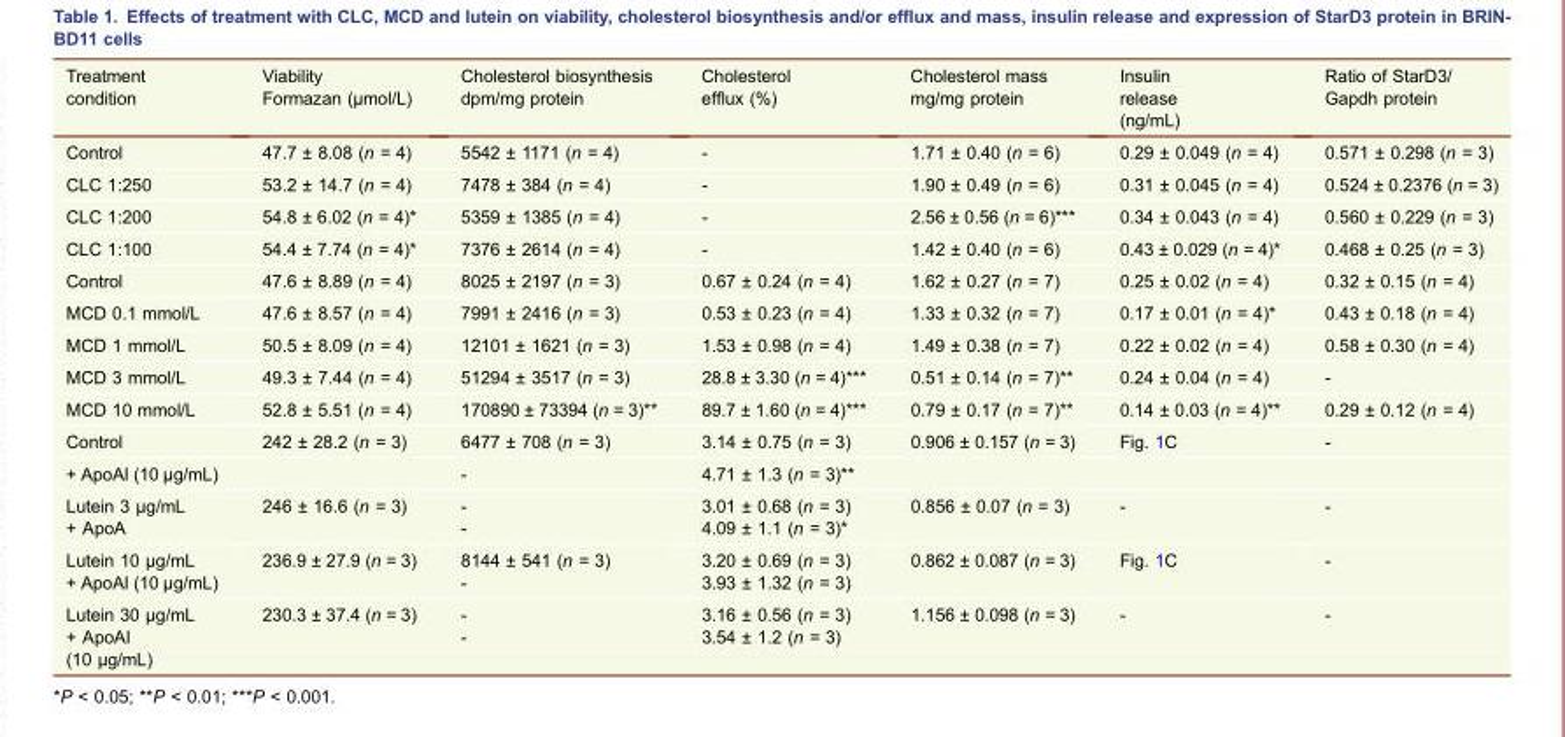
<table><thead><tr><td>Treatment condition</td><td>Viability Formazan (μmol/L)</td><td>Cholesterol biosynthesis dpm/mg protein</td><td>Cholesterol efflux (%)</td><td>Cholesterol mass mg/mg protein</td><td>Insulin release (ng/mL)</td><td>Ratio of StarD3/ Gapdh protein</td></tr></thead><tbody><tr><td>Control</td><td>47.7 ± 8.08 (n = 4)</td><td>5542 ± 1171 (n = 4)</td><td>-</td><td>1.71 ± 0.40 (n = 6)</td><td>0.29 ± 0.049 (n = 4)</td><td>0.571 ± 0.298 (n = 3)</td></tr><tr><td>CLC 1:250</td><td>53.2 ± 14.7 (n = 4)</td><td>7478 ± 384 (n = 4)</td><td>-</td><td>1.90 ± 0.49 (n = 6)</td><td>0.31 ± 0.045 (n = 4)</td><td>0.524 ± 0.2376 (n = 3)</td></tr><tr><td>CLC 1:200</td><td>54.8 ± 6.02 (n = 4)*</td><td>5359 ± 1385 (n = 4)</td><td>-</td><td>2.56 ± 0.56 (n = 6)***</td><td>0.34 ± 0.043 (n = 4)</td><td>0.560 ± 0.229 (n = 3)</td></tr><tr><td>CLC 1:100</td><td>54.4 ± 7.74 (n = 4)*</td><td>7376 ± 2614 (n = 4)</td><td>-</td><td>1.42 ± 0.40 (n = 6)</td><td>0.43 ± 0.029 (n = 4)*</td><td>0.468 ± 0.25 (n = 3)</td></tr><tr><td>Control</td><td>47.6 ± 8.89 (n = 4)</td><td>8025 ± 2197 (n = 3)</td><td>0.67 ± 0.24 (n = 4)</td><td>1.62 ± 0.27 (n = 7)</td><td>0.25 ± 0.02 (n = 4)</td><td>0.32 ± 0.15 (n = 4)</td></tr><tr><td>MCD 0.1 mmol/L</td><td>47.6 ± 8.57 (n = 4)</td><td>7991 ± 2416 (n = 3)</td><td>0.53 ± 0.23 (n = 4)</td><td>1.33 ± 0.32 (n = 7)</td><td>0.17 ± 0.01 (n = 4)*</td><td>0.43 ± 0.18 (n = 4)</td></tr><tr><td>MCD 1 mmol/L</td><td>50.5 ± 8.09 (n = 4)</td><td>12101 ± 1621 (n = 3)</td><td>1.53 ± 0.98 (n = 4)</td><td>1.49 ± 0.38 (n = 7)</td><td>0.22 ± 0.02 (n = 4)</td><td>0.58 ± 0.30 (n = 4)</td></tr><tr><td>MCD 3 mmol/L</td><td>49.3 ± 7.44 (n = 4)</td><td>51294 ± 3517 (n = 3)</td><td>28.8 ± 3.30 (n = 4)***</td><td>0.51 ± 0.14 (n = 7)**</td><td>0.24 ± 0.04 (n = 4)</td><td>-</td></tr><tr><td>MCD 10 mmol/L</td><td>52.8 ± 5.51 (n = 4)</td><td>170890 ± 73394 (n = 3)**</td><td>89.7 ± 1.60 (n = 4)***</td><td>0.79 ± 0.17 (n = 7)**</td><td>0.14 ± 0.03 (n = 4)**</td><td>0.29 ± 0.12 (n = 4)</td></tr><tr><td>Control</td><td>242 ± 28.2 (n = 3)</td><td>6477 ± 708 (n = 3)</td><td>3.14 ± 0.75 (n = 3)</td><td>0.906 ± 0.157 (n = 3)</td><td>Fig. 1C</td><td>-</td></tr><tr><td>+ ApoAI (10 μg/mL)</td><td></td><td>-</td><td>4.71 ± 1.3 (n = 3)**</td><td></td><td></td><td></td></tr><tr><td>Lutein 3 μg/mL + ApoA</td><td>246 ± 16.6 (n = 3)</td><td>- -</td><td>3.01 ± 0.68 (n = 3) 4.09 ± 1.1 (n = 3)*</td><td>0.856 ± 0.07 (n = 3)</td><td>-</td><td>-</td></tr><tr><td>Lutein 10 μg/mL + ApoAI (10 μg/mL)</td><td>236.9 ± 27.9 (n = 3)</td><td>8144 ± 541 (n = 3) -</td><td>3.20 ± 0.69 (n = 3) 3.93 ± 1.32 (n = 3)</td><td>0.862 ± 0.087 (n = 3)</td><td>Fig. 1C</td><td>-</td></tr><tr><td>Lutein 30 μg/mL + ApoAI (10 μg/mL)</td><td>230.3 ± 37.4 (n = 3)</td><td>- -</td><td>3.16 ± 0.56 (n = 3) 3.54 ± 1.2 (n = 3)</td><td>1.156 ± 0.098 (n = 3)</td><td>-</td><td>-</td></tr></tbody></table>